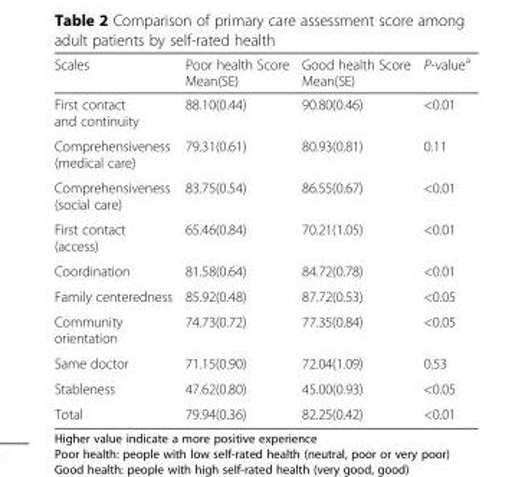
<table><thead><tr><td>Scales</td><td>Poor health Score Mean(SE)</td><td>Good health Score Mean(SE)</td><td>P-value<sup>a</sup></td></tr></thead><tbody><tr><td>First contact and continuity</td><td>88.10(0.44)</td><td>90.80(0.46)</td><td>&lt;0.01</td></tr><tr><td>Comprehensiveness (medical care)</td><td>79.31(0.61)</td><td>80.93(0.81)</td><td>0.11</td></tr><tr><td>Comprehensiveness (social care)</td><td>83.75(0.54)</td><td>86.55(0.67)</td><td>&lt;0.01</td></tr><tr><td>First contact (access)</td><td>65.46(0.84)</td><td>70.21(1.05)</td><td>&lt;0.01</td></tr><tr><td>Coordination</td><td>81.58(0.64)</td><td>84.72(0.78)</td><td>&lt;0.01</td></tr><tr><td>Family centeredness</td><td>85.92(0.48)</td><td>87.72(0.53)</td><td>&lt;0.05</td></tr><tr><td>Community orientation</td><td>74.73(0.72)</td><td>77.35(0.84)</td><td>&lt;0.05</td></tr><tr><td>Same doctor</td><td>71.15(0.90)</td><td>72.04(1.09)</td><td>0.53</td></tr><tr><td>Stableness</td><td>47.62(0.80)</td><td>45.00(0.93)</td><td>&lt;0.05</td></tr><tr><td>Total</td><td>79.94(0.36)</td><td>82.25(0.42)</td><td>&lt;0.01</td></tr></tbody></table>